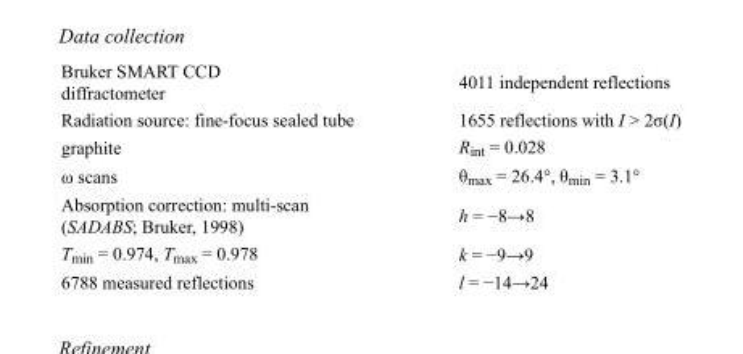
<table><tbody><tr><td>Bruker SMART CCD diffractometer</td><td>4011 independent reflections</td></tr><tr><td>Radiation source: fine-focus sealed tube</td><td>1655 reflections with I &gt; 2σ(I)</td></tr><tr><td>graphite</td><td>R<sub>int</sub> = 0.028</td></tr><tr><td>ω scans</td><td>θ<sub>max</sub> = 26.4°, θ<sub>min</sub> = 3.1°</td></tr><tr><td>Absorption correction: multi-scan (SADABS; Bruker, 1998)</td><td>h = −8→8</td></tr><tr><td>T<sub>min</sub> = 0.974, T<sub>max</sub> = 0.978</td><td>k = −9→9</td></tr><tr><td>6788 measured reflections</td><td>l = −14→24</td></tr></tbody></table>